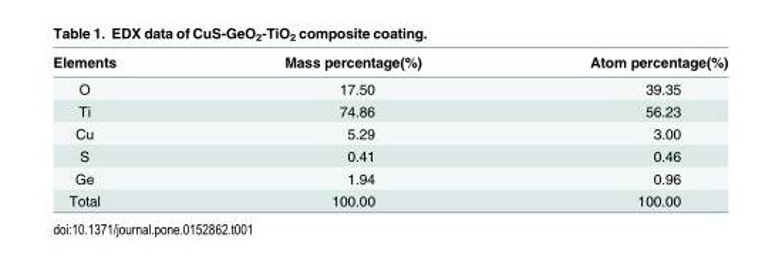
<table><thead><tr><td>Elements</td><td>Mass percentage(%)</td><td>Atom percentage(%)</td></tr></thead><tbody><tr><td>O</td><td>17.50</td><td>39.35</td></tr><tr><td>Ti</td><td>74.86</td><td>56.23</td></tr><tr><td>Cu</td><td>5.29</td><td>3.00</td></tr><tr><td>S</td><td>0.41</td><td>0.46</td></tr><tr><td>Ge</td><td>1.94</td><td>0.96</td></tr><tr><td>Total</td><td>100.00</td><td>100.00</td></tr></tbody></table>